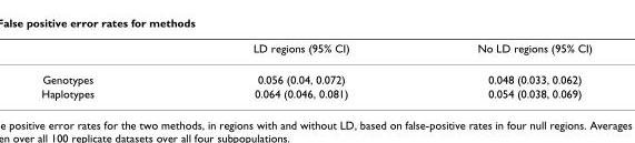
<table><thead><tr><td></td><td>LD regions (95% CI)</td><td>No LD regions (95% CI)</td></tr></thead><tbody><tr><td>Genotypes</td><td>0.056 (0.04, 0.072)</td><td>0.048 (0.033, 0.062)</td></tr><tr><td>Haplotypes</td><td>0.064 (0.046, 0.081)</td><td>0.054 (0.038, 0.069)</td></tr></tbody></table>